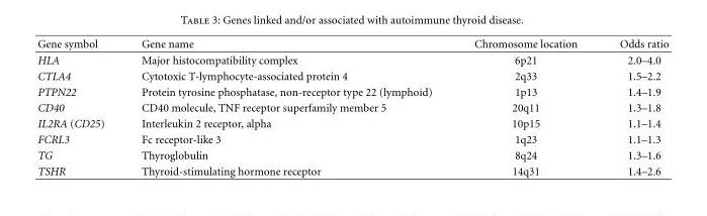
<table><thead><tr><td>Gene symbol</td><td>Gene name</td><td>Chromosome location</td><td>Odds ratio</td></tr></thead><tbody><tr><td>HLA</td><td>Major histocompatibility complex</td><td>6p21</td><td>2.0–4.0</td></tr><tr><td>CTLA4</td><td>Cytotoxic T-lymphocyte-associated protein 4</td><td>2q33</td><td>1.5–2.2</td></tr><tr><td>PTPN22</td><td>Protein tyrosine phosphatase, non-receptor type 22 (lymphoid)</td><td>1p13</td><td>1.4–1.9</td></tr><tr><td>CD40</td><td>CD40 molecule, TNF receptor superfamily member 5</td><td>20q11</td><td>1.3–1.8</td></tr><tr><td>IL2RA (CD25)</td><td>Interleukin 2 receptor, alpha</td><td>10p15</td><td>1.1–1.4</td></tr><tr><td>FCRL3</td><td>Fc receptor-like 3</td><td>1q23</td><td>1.1–1.3</td></tr><tr><td>TG</td><td>Thyroglobulin</td><td>8q24</td><td>1.3–1.6</td></tr><tr><td>TSHR</td><td>Thyroid-stimulating hormone receptor</td><td>14q31</td><td>1.4–2.6</td></tr></tbody></table>